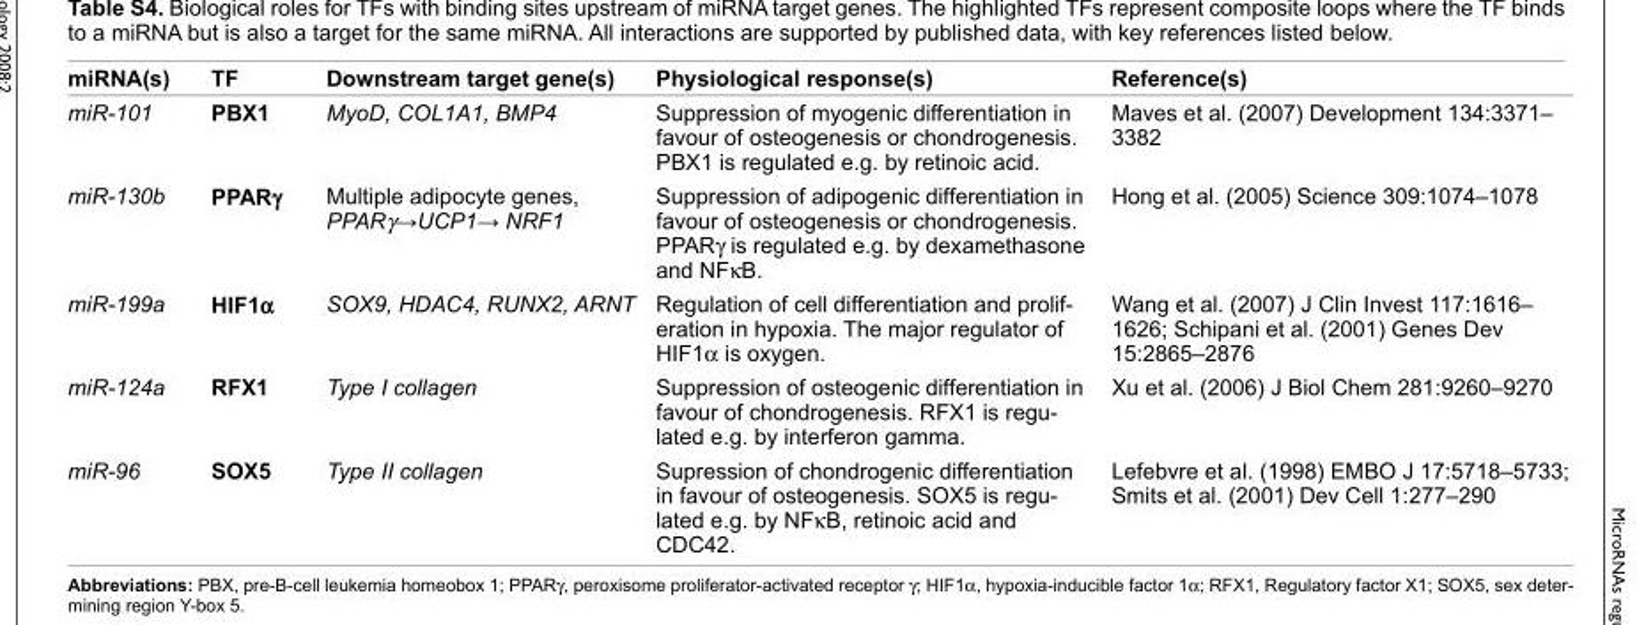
<table><thead><tr><td>miRNA(s)</td><td>TF</td><td>Downstream target gene(s)</td><td>Physiological response(s)</td><td>Reference(s)</td></tr></thead><tbody><tr><td>miR-101</td><td>PBX1</td><td>MyoD, COL1A1, BMP4</td><td>Suppression of myogenic differentiation in favour of osteogenesis or chondrogenesis. PBX1 is regulated e.g. by retinoic acid.</td><td>Maves et al. (2007) Development 134:3371– 3382</td></tr><tr><td>miR-130b</td><td>PPARγ</td><td>Multiple adipocyte genes, PPARγ→UCP1→ NRF1</td><td>Suppression of adipogenic differentiation in favour of osteogenesis or chondrogenesis. PPARγ is regulated e.g. by dexamethasone and NFκB.</td><td>Hong et al. (2005) Science 309:1074–1078</td></tr><tr><td>miR-199a</td><td>HIF1α</td><td>SOX9, HDAC4, RUNX2, ARNT</td><td>Regulation of cell differentiation and prolif- eration in hypoxia. The major regulator of HIF1α is oxygen.</td><td>Wang et al. (2007) J Clin Invest 117:1616– 1626; Schipani et al. (2001) Genes Dev 15:2865–2876</td></tr><tr><td>miR-124a</td><td>RFX1</td><td>Type I collagen</td><td>Suppression of osteogenic differentiation in favour of chondrogenesis. RFX1 is regu- lated e.g. by interferon gamma.</td><td>Xu et al. (2006) J Biol Chem 281:9260–9270</td></tr><tr><td>miR-96</td><td>SOX5</td><td>Type II collagen</td><td>Supression of chondrogenic differentiation in favour of osteogenesis. SOX5 is regu- lated e.g. by NFκB, retinoic acid and CDC42.</td><td>Lefebvre et al. (1998) EMBO J 17:5718–5733; Smits et al. (2001) Dev Cell 1:277–290</td></tr></tbody></table>